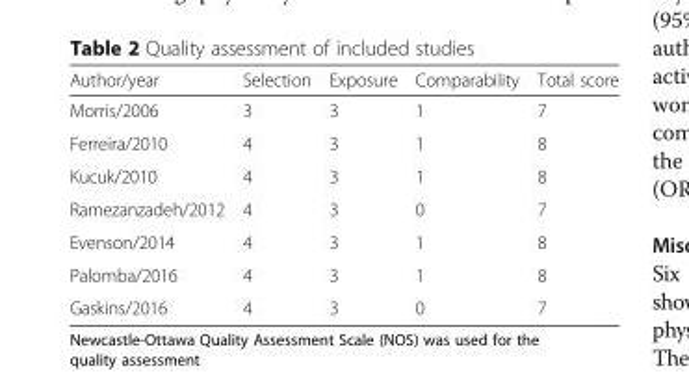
<table><thead><tr><td>Author/year</td><td>Selection</td><td>Exposure</td><td>Comparability</td><td>Total score</td></tr></thead><tbody><tr><td>Morris/2006</td><td>3</td><td>3</td><td>1</td><td>7</td></tr><tr><td>Ferreira/2010</td><td>4</td><td>3</td><td>1</td><td>8</td></tr><tr><td>Kucuk/2010</td><td>4</td><td>3</td><td>1</td><td>8</td></tr><tr><td>Ramezanzadeh/2012</td><td>4</td><td>3</td><td>0</td><td>7</td></tr><tr><td>Evenson/2014</td><td>4</td><td>3</td><td>1</td><td>8</td></tr><tr><td>Palomba/2016</td><td>4</td><td>3</td><td>1</td><td>8</td></tr><tr><td>Gaskins/2016</td><td>4</td><td>3</td><td>0</td><td>7</td></tr></tbody></table>